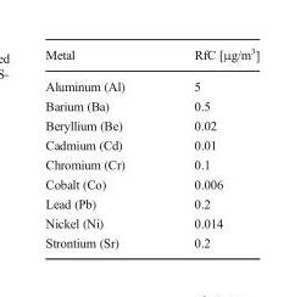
<table><thead><tr><td>Metal</td><td>RfC [μg/m<sup>3</sup>]</td></tr></thead><tbody><tr><td>Aluminum (Al)</td><td>5</td></tr><tr><td>Barium (Ba)</td><td>0.5</td></tr><tr><td>Beryllium (Be)</td><td>0.02</td></tr><tr><td>Cadmium (Cd)</td><td>0.01</td></tr><tr><td>Chromium (Cr)</td><td>0.1</td></tr><tr><td>Cobalt (Co)</td><td>0.006</td></tr><tr><td>Lead (Pb)</td><td>0.2</td></tr><tr><td>Nickel (Ni)</td><td>0.014</td></tr><tr><td>Strontium (Sr)</td><td>0.2</td></tr></tbody></table>